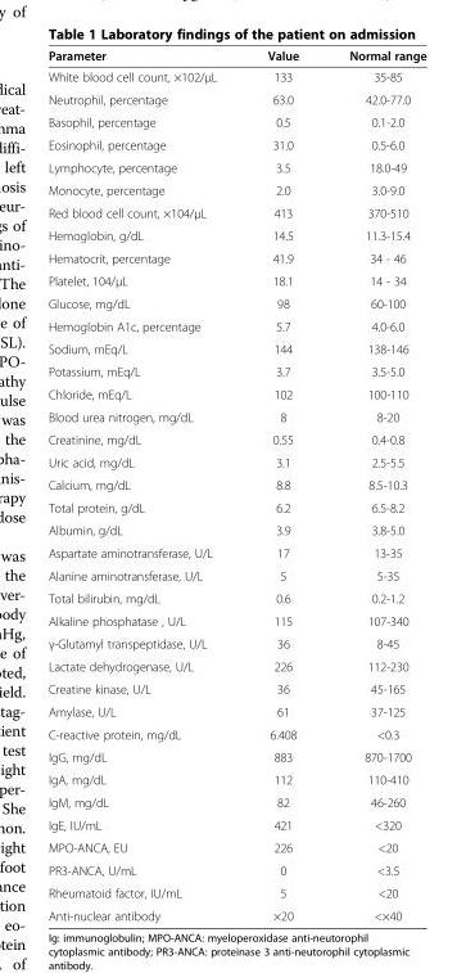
<table><thead><tr><td>Parameter</td><td>Value</td><td>Normal range</td></tr></thead><tbody><tr><td>White blood cell count, ×102/μL</td><td>133</td><td>35-85</td></tr><tr><td>Neutrophil, percentage</td><td>63.0</td><td>42.0-77.0</td></tr><tr><td>Basophil, percentage</td><td>0.5</td><td>0.1-2.0</td></tr><tr><td>Eosinophil, percentage</td><td>31.0</td><td>0.5-6.0</td></tr><tr><td>Lymphocyte, percentage</td><td>3.5</td><td>18.0-49</td></tr><tr><td>Monocyte, percentage</td><td>2.0</td><td>3.0-9.0</td></tr><tr><td>Red blood cell count, ×104/μL</td><td>413</td><td>370-510</td></tr><tr><td>Hemoglobin, g/dL</td><td>14.5</td><td>11.3-15.4</td></tr><tr><td>Hematocrit, percentage</td><td>41.9</td><td>34 - 46</td></tr><tr><td>Platelet, 104/μL</td><td>18.1</td><td>14 - 34</td></tr><tr><td>Glucose, mg/dL</td><td>98</td><td>60-100</td></tr><tr><td>Hemoglobin A1c, percentage</td><td>5.7</td><td>4.0-6.0</td></tr><tr><td>Sodium, mEq/L</td><td>144</td><td>138-146</td></tr><tr><td>Potassium, mEq/L</td><td>3.7</td><td>3.5-5.0</td></tr><tr><td>Chloride, mEq/L</td><td>102</td><td>100-110</td></tr><tr><td>Blood urea nitrogen, mg/dL</td><td>8</td><td>8-20</td></tr><tr><td>Creatinine, mg/dL</td><td>0.55</td><td>0.4-0.8</td></tr><tr><td>Uric acid, mg/dL</td><td>3.1</td><td>2.5-5.5</td></tr><tr><td>Calcium, mg/dL</td><td>8.8</td><td>8.5-10.3</td></tr><tr><td>Total protein, g/dL</td><td>6.2</td><td>6.5-8.2</td></tr><tr><td>Albumin, g/dL</td><td>3.9</td><td>3.8-5.0</td></tr><tr><td>Aspartate aminotransferase, U/L</td><td>17</td><td>13-35</td></tr><tr><td>Alanine aminotransferase, U/L</td><td>5</td><td>5-35</td></tr><tr><td>Total bilirubin, mg/dL</td><td>0.6</td><td>0.2-1.2</td></tr><tr><td>Alkaline phosphatase , U/L</td><td>115</td><td>107-340</td></tr><tr><td>γ-Glutamyl transpeptidase, U/L</td><td>36</td><td>8-45</td></tr><tr><td>Lactate dehydrogenase, U/L</td><td>226</td><td>112-230</td></tr><tr><td>Creatine kinase, U/L</td><td>36</td><td>45-165</td></tr><tr><td>Amylase, U/L</td><td>61</td><td>37-125</td></tr><tr><td>C-reactive protein, mg/dL</td><td>6.408</td><td>&lt;0.3</td></tr><tr><td>IgG, mg/dL</td><td>883</td><td>870-1700</td></tr><tr><td>IgA, mg/dL</td><td>112</td><td>110-410</td></tr><tr><td>IgM, mg/dL</td><td>82</td><td>46-260</td></tr><tr><td>IgE, IU/mL</td><td>421</td><td>&lt;320</td></tr><tr><td>MPO-ANCA, EU</td><td>226</td><td>&lt;20</td></tr><tr><td>PR3-ANCA, U/mL</td><td>0</td><td>&lt;3.5</td></tr><tr><td>Rheumatoid factor, IU/mL</td><td>5</td><td>&lt;20</td></tr><tr><td>Anti-nuclear antibody</td><td>×20</td><td>&lt;×40</td></tr></tbody></table>